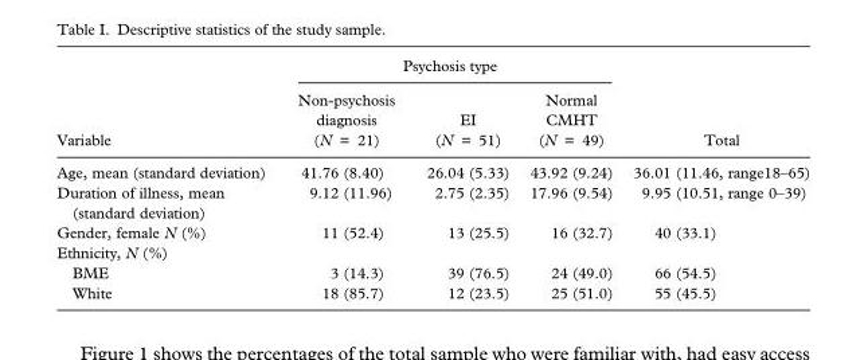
<table><thead><tr><td rowspan="2">Variable</td><td colspan="3">Psychosis type</td><td rowspan="2">Total</td></tr><tr><td>Non-psychosis diagnosis (N = 21)</td><td>EI (N = 51)</td><td>Normal CMHT (N = 49)</td></tr></thead><tbody><tr><td>Age, mean (standard deviation)</td><td>41.76 (8.40)</td><td>26.04 (5.33)</td><td>43.92 (9.24)</td><td>36.01 (11.46, range18–65)</td></tr><tr><td>Duration of illness, mean (standard deviation)</td><td>9.12 (11.96)</td><td>2.75 (2.35)</td><td>17.96 (9.54)</td><td>9.95 (10.51, range 0–39)</td></tr><tr><td>Gender, female N (%)</td><td>11 (52.4)</td><td>13 (25.5)</td><td>16 (32.7)</td><td>40 (33.1)</td></tr><tr><td colspan="5">Ethnicity, N (%)</td></tr><tr><td>BME</td><td>3 (14.3)</td><td>39 (76.5)</td><td>24 (49.0)</td><td>66 (54.5)</td></tr><tr><td>White</td><td>18 (85.7)</td><td>12 (23.5)</td><td>25 (51.0)</td><td>55 (45.5)</td></tr></tbody></table>